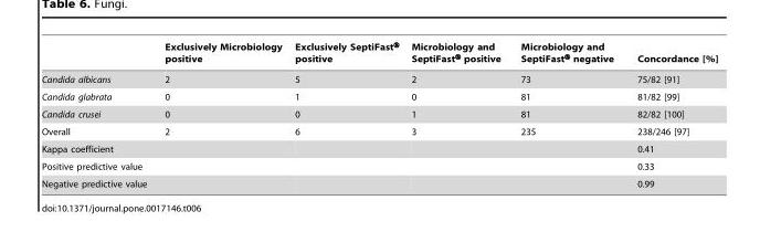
<table><thead><tr><td></td><td>Exclusively Microbiology positive</td><td>Exclusively SeptiFast<sup>®</sup> positive</td><td>Microbiology and SeptiFast<sup>®</sup> positive</td><td>Microbiology and SeptiFast<sup>®</sup> negative</td><td>Concordance [%]</td></tr></thead><tbody><tr><td>Candida albicans</td><td>2</td><td>5</td><td>2</td><td>73</td><td>75/82 [91]</td></tr><tr><td>Candida glabrata</td><td>0</td><td>1</td><td>0</td><td>81</td><td>81/82 [99]</td></tr><tr><td>Candida crusei</td><td>0</td><td>0</td><td>1</td><td>81</td><td>82/82 [100]</td></tr><tr><td>Overall</td><td>2</td><td>6</td><td>3</td><td>235</td><td>238/246 [97]</td></tr><tr><td colspan="2">Kappa coefficient</td><td></td><td></td><td></td><td>0.41</td></tr><tr><td colspan="2">Positive predictive value</td><td></td><td></td><td></td><td>0.33</td></tr><tr><td colspan="2">Negative predictive value</td><td></td><td></td><td></td><td>0.99</td></tr></tbody></table>